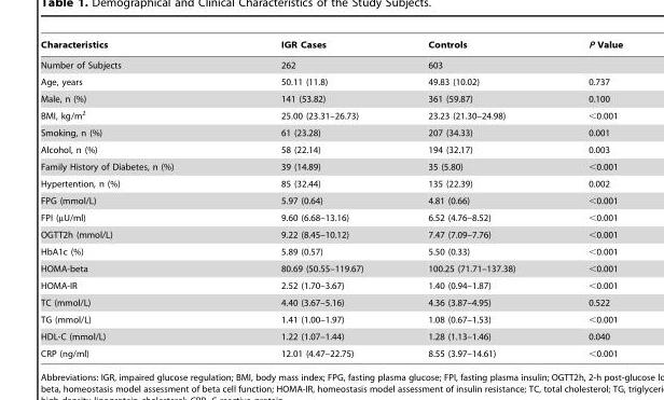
<table><thead><tr><td>Characteristics</td><td>IGR Cases</td><td>Controls</td><td>P Value</td></tr></thead><tbody><tr><td>Number of Subjects</td><td>262</td><td>603</td><td></td></tr><tr><td>Age, years</td><td>50.11 (11.8)</td><td>49.83 (10.02)</td><td>0.737</td></tr><tr><td>Male, n (%)</td><td>141 (53.82)</td><td>361 (59.87)</td><td>0.100</td></tr><tr><td>BMI, kg/m<sup>2</sup></td><td>25.00 (23.31–26.73)</td><td>23.23 (21.30–24.98)</td><td>&lt;0.001</td></tr><tr><td>Smoking, n (%)</td><td>61 (23.28)</td><td>207 (34.33)</td><td>0.001</td></tr><tr><td>Alcohol, n (%)</td><td>58 (22.14)</td><td>194 (32.17)</td><td>0.003</td></tr><tr><td>Family History of Diabetes, n (%)</td><td>39 (14.89)</td><td>35 (5.80)</td><td>&lt;0.001</td></tr><tr><td>Hypertention, n (%)</td><td>85 (32.44)</td><td>135 (22.39)</td><td>0.002</td></tr><tr><td>FPG (mmol/L)</td><td>5.97 (0.64)</td><td>4.81 (0.66)</td><td>&lt;0.001</td></tr><tr><td>FPI (µU/ml)</td><td>9.60 (6.68–13.16)</td><td>6.52 (4.76–8.52)</td><td>&lt;0.001</td></tr><tr><td>OGTT2h (mmol/L)</td><td>9.22 (8.45–10.12)</td><td>7.47 (7.09–7.76)</td><td>&lt;0.001</td></tr><tr><td>HbA1c (%)</td><td>5.89 (0.57)</td><td>5.50 (0.33)</td><td>&lt;0.001</td></tr><tr><td>HOMA-beta</td><td>80.69 (50.55–119.67)</td><td>100.25 (71.71–137.38)</td><td>&lt;0.001</td></tr><tr><td>HOMA-IR</td><td>2.52 (1.70–3.67)</td><td>1.40 (0.94–1.87)</td><td>&lt;0.001</td></tr><tr><td>TC (mmol/L)</td><td>4.40 (3.67–5.16)</td><td>4.36 (3.87–4.95)</td><td>0.522</td></tr><tr><td>TG (mmol/L)</td><td>1.41 (1.00–1.97)</td><td>1.08 (0.67–1.53)</td><td>&lt;0.001</td></tr><tr><td>HDL-C (mmol/L)</td><td>1.22 (1.07–1.44)</td><td>1.28 (1.13–1.46)</td><td>0.040</td></tr><tr><td>CRP (ng/ml)</td><td>12.01 (4.47–22.75)</td><td>8.55 (3.97–14.61)</td><td>&lt;0.001</td></tr></tbody></table>